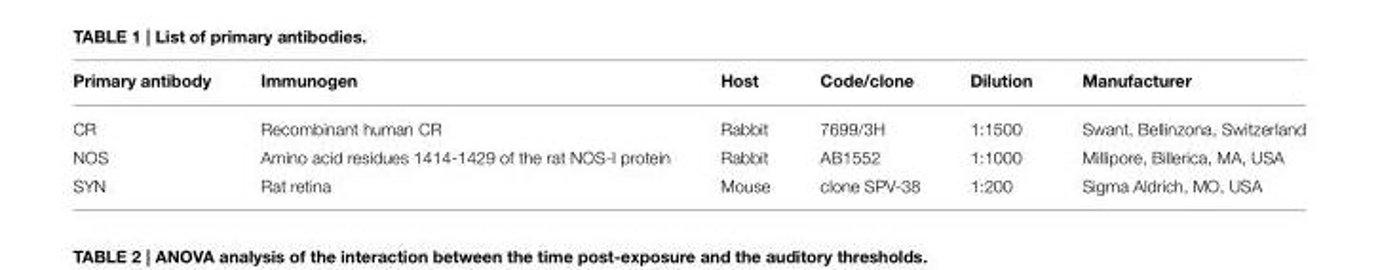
<table><thead><tr><td>Primary antibody</td><td>Immunogen</td><td>Host</td><td>Code/clone</td><td>Dilution</td><td>Manufacturer</td></tr></thead><tbody><tr><td>CR</td><td>Recombinant human CR</td><td>Rabbit</td><td>7699/3H</td><td>1:1500</td><td>Swant, Bellinzona, Switzerland</td></tr><tr><td>NOS</td><td>Amino acid residues 1414-1429 of the rat NOS-I protein</td><td>Rabbit</td><td>AB1552</td><td>1:1000</td><td>Millipore, Billerica, MA, USA</td></tr><tr><td>SYN</td><td>Rat retina</td><td>Mouse</td><td>clone SPV-38</td><td>1:200</td><td>Sigma Aldrich, MO, USA</td></tr></tbody></table>